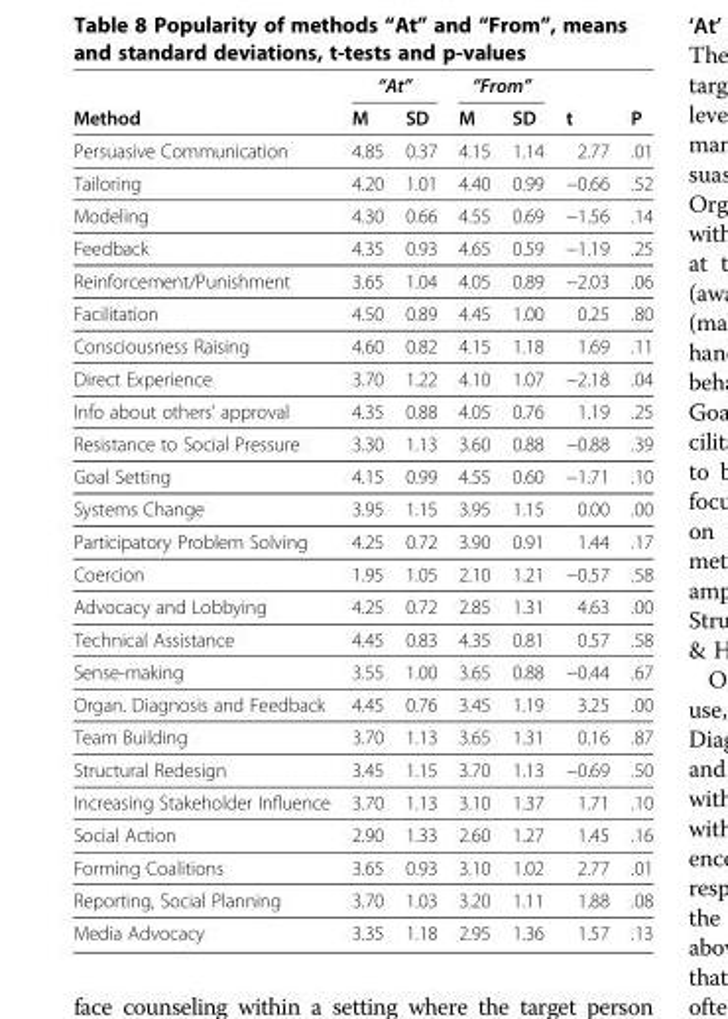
<table><thead><tr><td rowspan="2">Method</td><td colspan="2">“At”</td><td colspan="2">“From”</td><td rowspan="2">t</td><td rowspan="2">P</td></tr><tr><td>M</td><td>SD</td><td>M</td><td>SD</td></tr></thead><tbody><tr><td>Persuasive Communication</td><td>4.85</td><td>0.37</td><td>4.15</td><td>1.14</td><td>2.77</td><td>.01</td></tr><tr><td>Tailoring</td><td>4.20</td><td>1.01</td><td>4.40</td><td>0.99</td><td>−0.66</td><td>.52</td></tr><tr><td>Modeling</td><td>4.30</td><td>0.66</td><td>4.55</td><td>0.69</td><td>−1.56</td><td>.14</td></tr><tr><td>Feedback</td><td>4.35</td><td>0.93</td><td>4.65</td><td>0.59</td><td>−1.19</td><td>.25</td></tr><tr><td>Reinforcement/Punishment</td><td>3.65</td><td>1.04</td><td>4.05</td><td>0.89</td><td>−2.03</td><td>.06</td></tr><tr><td>Facilitation</td><td>4.50</td><td>0.89</td><td>4.45</td><td>1.00</td><td>0.25</td><td>.80</td></tr><tr><td>Consciousness Raising</td><td>4.60</td><td>0.82</td><td>4.15</td><td>1.18</td><td>1.69</td><td>.11</td></tr><tr><td>Direct Experience</td><td>3.70</td><td>1.22</td><td>4.10</td><td>1.07</td><td>−2.18</td><td>.04</td></tr><tr><td>Info about others’ approval</td><td>4.35</td><td>0.88</td><td>4.05</td><td>0.76</td><td>1.19</td><td>.25</td></tr><tr><td>Resistance to Social Pressure</td><td>3.30</td><td>1.13</td><td>3.60</td><td>0.88</td><td>−0.88</td><td>.39</td></tr><tr><td>Goal Setting</td><td>4.15</td><td>0.99</td><td>4.55</td><td>0.60</td><td>−1.71</td><td>.10</td></tr><tr><td>Systems Change</td><td>3.95</td><td>1.15</td><td>3.95</td><td>1.15</td><td>0.00</td><td>.00</td></tr><tr><td>Participatory Problem Solving</td><td>4.25</td><td>0.72</td><td>3.90</td><td>0.91</td><td>1.44</td><td>.17</td></tr><tr><td>Coercion</td><td>1.95</td><td>1.05</td><td>2.10</td><td>1.21</td><td>−0.57</td><td>.58</td></tr><tr><td>Advocacy and Lobbying</td><td>4.25</td><td>0.72</td><td>2.85</td><td>1.31</td><td>4.63</td><td>.00</td></tr><tr><td>Technical Assistance</td><td>4.45</td><td>0.83</td><td>4.35</td><td>0.81</td><td>0.57</td><td>.58</td></tr><tr><td>Sense-making</td><td>3.55</td><td>1.00</td><td>3.65</td><td>0.88</td><td>−0.44</td><td>.67</td></tr><tr><td>Organ. Diagnosis and Feedback</td><td>4.45</td><td>0.76</td><td>3.45</td><td>1.19</td><td>3.25</td><td>.00</td></tr><tr><td>Team Building</td><td>3.70</td><td>1.13</td><td>3.65</td><td>1.31</td><td>0.16</td><td>.87</td></tr><tr><td>Structural Redesign</td><td>3.45</td><td>1.15</td><td>3.70</td><td>1.13</td><td>−0.69</td><td>.50</td></tr><tr><td>Increasing Stakeholder Influence</td><td>3.70</td><td>1.13</td><td>3.10</td><td>1.37</td><td>1.71</td><td>.10</td></tr><tr><td>Social Action</td><td>2.90</td><td>1.33</td><td>2.60</td><td>1.27</td><td>1.45</td><td>.16</td></tr><tr><td>Forming Coalitions</td><td>3.65</td><td>0.93</td><td>3.10</td><td>1.02</td><td>2.77</td><td>.01</td></tr><tr><td>Reporting, Social Planning</td><td>3.70</td><td>1.03</td><td>3.20</td><td>1.11</td><td>1.88</td><td>.08</td></tr><tr><td>Media Advocacy</td><td>3.35</td><td>1.18</td><td>2.95</td><td>1.36</td><td>1.57</td><td>.13</td></tr></tbody></table>